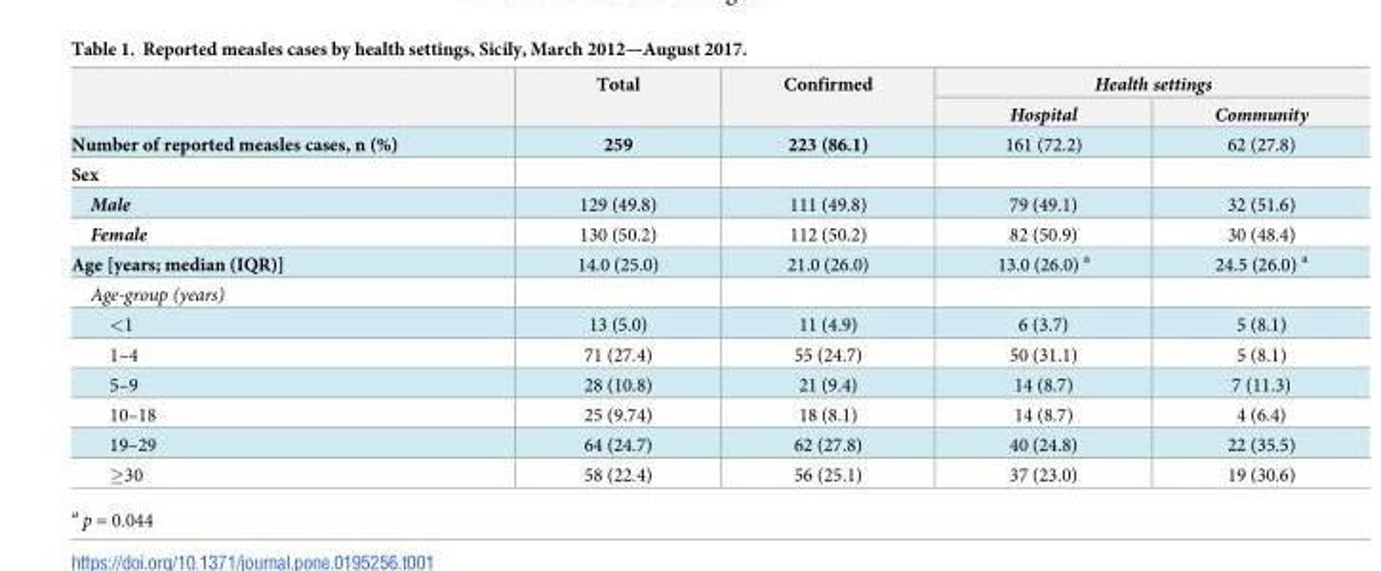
<table><thead><tr><td rowspan="2"></td><td rowspan="2">Total</td><td rowspan="2">Confirmed</td><td colspan="2">Health settings</td></tr><tr><td>Hospital</td><td>Community</td></tr></thead><tbody><tr><td>Number of reported measles cases, n (%)</td><td>259</td><td>223 (86.1)</td><td>161 (72.2)</td><td>62 (27.8)</td></tr><tr><td colspan="5">Sex</td></tr><tr><td>Male</td><td>129 (49.8)</td><td>111 (49.8)</td><td>79 (49.1)</td><td>32 (51.6)</td></tr><tr><td>Female</td><td>130 (50.2)</td><td>112 (50.2)</td><td>82 (50.9)</td><td>30 (48.4)</td></tr><tr><td>Age [years; median (IQR)]</td><td>14.0 (25.0)</td><td>21.0 (26.0)</td><td>13.0 (26.0) <sup>a</sup></td><td>24.5 (26.0) <sup>a</sup></td></tr><tr><td colspan="5">Age-group (years)</td></tr><tr><td>&lt;1</td><td>13 (5.0)</td><td>11 (4.9)</td><td>6 (3.7)</td><td>5 (8.1)</td></tr><tr><td>1–4</td><td>71 (27.4)</td><td>55 (24.7)</td><td>50 (31.1)</td><td>5 (8.1)</td></tr><tr><td>5–9</td><td>28 (10.8)</td><td>21 (9.4)</td><td>14 (8.7)</td><td>7 (11.3)</td></tr><tr><td>10–18</td><td>25 (9.74)</td><td>18 (8.1)</td><td>14 (8.7)</td><td>4 (6.4)</td></tr><tr><td>19–29</td><td>64 (24.7)</td><td>62 (27.8)</td><td>40 (24.8)</td><td>22 (35.5)</td></tr><tr><td>≥30</td><td>58 (22.4)</td><td>56 (25.1)</td><td>37 (23.0)</td><td>19 (30.6)</td></tr></tbody></table>